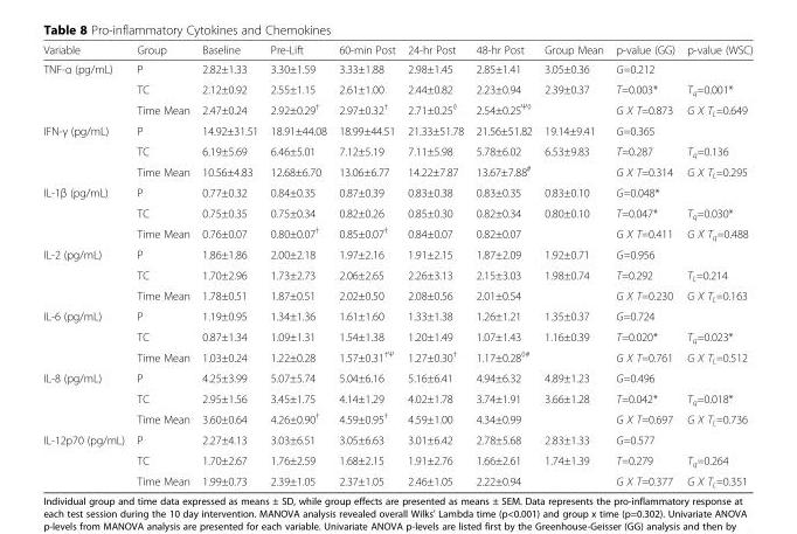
<table><thead><tr><td>Variable</td><td>Group</td><td>Baseline</td><td>Pre-Lift</td><td>60-min Post</td><td>24-hr Post</td><td>48-hr Post</td><td>Group Mean</td><td>p-value (GG)</td><td>p-value (WSC)</td></tr></thead><tbody><tr><td rowspan="3">TNF-α (pg/mL)</td><td>P</td><td>2.82±1.33</td><td>3.30±1.59</td><td>3.33±1.88</td><td>2.98±1.45</td><td>2.85±1.41</td><td>3.05±0.36</td><td>G=0.212</td><td></td></tr><tr><td>TC</td><td>2.12±0.92</td><td>2.55±1.15</td><td>2.61±1.00</td><td>2.44±0.82</td><td>2.23±0.94</td><td>2.39±0.37</td><td>T=0.003*</td><td>T<sub>q</sub>=0.001*</td></tr><tr><td>Time Mean</td><td>2.47±0.24</td><td>2.92±0.29<sup>†</sup></td><td>2.97±0.32<sup>†</sup></td><td>2.71±0.25<sup>◊</sup></td><td>2.54±0.25<sup>Ψ◊</sup></td><td></td><td>G X T=0.873</td><td>G X T<sub>L</sub>=0.649</td></tr><tr><td rowspan="3">IFN-γ (pg/mL)</td><td>P</td><td>14.92±31.51</td><td>18.91±44.08</td><td>18.99±44.51</td><td>21.33±51.78</td><td>21.56±51.82</td><td>19.14±9.41</td><td>G=0.365</td><td></td></tr><tr><td>TC</td><td>6.19±5.69</td><td>6.46±5.01</td><td>7.12±5.19</td><td>7.11±5.98</td><td>5.78±6.02</td><td>6.53±9.83</td><td>T=0.287</td><td>T<sub>q</sub>=0.136</td></tr><tr><td>Time Mean</td><td>10.56±4.83</td><td>12.68±6.70</td><td>13.06±6.77</td><td>14.22±7.87</td><td>13.67±7.88<sup>#</sup></td><td></td><td>G X T=0.314</td><td>G X T<sub>L</sub>=0.295</td></tr><tr><td rowspan="3">IL-1β (pg/mL)</td><td>P</td><td>0.77±0.32</td><td>0.84±0.35</td><td>0.87±0.39</td><td>0.83±0.38</td><td>0.83±0.35</td><td>0.83±0.10</td><td>G=0.048*</td><td></td></tr><tr><td>TC</td><td>0.75±0.35</td><td>0.75±0.34</td><td>0.82±0.26</td><td>0.85±0.30</td><td>0.82±0.34</td><td>0.80±0.10</td><td>T=0.047*</td><td>T<sub>q</sub>=0.030*</td></tr><tr><td>Time Mean</td><td>0.76±0.07</td><td>0.80±0.07<sup>†</sup></td><td>0.85±0.07<sup>†</sup></td><td>0.84±0.07</td><td>0.82±0.07</td><td></td><td>G X T=0.411</td><td>G X T<sub>q</sub>=0.488</td></tr><tr><td rowspan="3">IL-2 (pg/mL)</td><td>P</td><td>1.86±1.86</td><td>2.00±2.18</td><td>1.97±2.16</td><td>1.91±2.15</td><td>1.87±2.09</td><td>1.92±0.71</td><td>G=0.956</td><td></td></tr><tr><td>TC</td><td>1.70±2.96</td><td>1.73±2.73</td><td>2.06±2.65</td><td>2.26±3.13</td><td>2.15±3.03</td><td>1.98±0.74</td><td>T=0.292</td><td>T<sub>L</sub>=0.214</td></tr><tr><td>Time Mean</td><td>1.78±0.51</td><td>1.87±0.51</td><td>2.02±0.50</td><td>2.08±0.56</td><td>2.01±0.54</td><td></td><td>G X T=0.230</td><td>G X T<sub>L</sub>=0.163</td></tr><tr><td rowspan="3">IL-6 (pg/mL)</td><td>P</td><td>1.19±0.95</td><td>1.34±1.36</td><td>1.61±1.60</td><td>1.33±1.38</td><td>1.26±1.21</td><td>1.35±0.37</td><td>G=0.724</td><td></td></tr><tr><td>TC</td><td>0.87±1.34</td><td>1.09±1.31</td><td>1.54±1.38</td><td>1.20±1.49</td><td>1.07±1.43</td><td>1.16±0.39</td><td>T=0.020*</td><td>T<sub>q</sub>=0.023*</td></tr><tr><td>Time Mean</td><td>1.03±0.24</td><td>1.22±0.28</td><td>1.57±0.31<sup>†Ψ</sup></td><td>1.27±0.30<sup>†</sup></td><td>1.17±0.28<sup>◊#</sup></td><td></td><td>G X T=0.761</td><td>G X T<sub>L</sub>=0.512</td></tr><tr><td rowspan="3">IL-8 (pg/mL)</td><td>P</td><td>4.25±3.99</td><td>5.07±5.74</td><td>5.04±6.16</td><td>5.16±6.41</td><td>4.94±6.32</td><td>4.89±1.23</td><td>G=0.496</td><td></td></tr><tr><td>TC</td><td>2.95±1.56</td><td>3.45±1.75</td><td>4.14±1.29</td><td>4.02±1.78</td><td>3.74±1.91</td><td>3.66±1.28</td><td>T=0.042*</td><td>T<sub>q</sub>=0.018*</td></tr><tr><td>Time Mean</td><td>3.60±0.64</td><td>4.26±0.90<sup>†</sup></td><td>4.59±0.95<sup>†</sup></td><td>4.59±1.00</td><td>4.34±0.99</td><td></td><td>G X T=0.697</td><td>G X T<sub>L</sub>=0.736</td></tr><tr><td rowspan="3">IL-12p70 (pg/mL)</td><td>P</td><td>2.27±4.13</td><td>3.03±6.51</td><td>3.05±6.63</td><td>3.01±6.42</td><td>2.78±5.68</td><td>2.83±1.33</td><td>G=0.577</td><td></td></tr><tr><td>TC</td><td>1.70±2.67</td><td>1.76±2.59</td><td>1.68±2.15</td><td>1.91±2.76</td><td>1.66±2.61</td><td>1.74±1.39</td><td>T=0.279</td><td>T<sub>q</sub>=0.264</td></tr><tr><td>Time Mean</td><td>1.99±0.73</td><td>2.39±1.05</td><td>2.37±1.05</td><td>2.46±1.05</td><td>2.22±0.94</td><td></td><td>G X T=0.377</td><td>G X T<sub>L</sub>=0.351</td></tr></tbody></table>